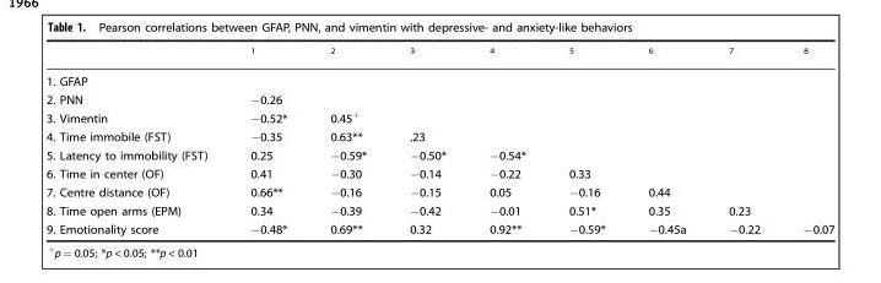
<table><thead><tr><td></td><td><sup>1</sup></td><td><sup>2</sup></td><td><sup>3</sup></td><td><sup>4</sup></td><td><sup>5</sup></td><td><sup>6</sup></td><td><sup>7</sup></td><td><sup>8</sup></td></tr></thead><tbody><tr><td colspan="9">1. GFAP</td></tr><tr><td>2. PNN</td><td>−0.26</td><td></td><td></td><td></td><td></td><td></td><td></td><td></td></tr><tr><td>3. Vimentin</td><td>−0.52*</td><td>0.45<sup>+</sup></td><td></td><td></td><td></td><td></td><td></td><td></td></tr><tr><td>4. Time immobile (FST)</td><td>−0.35</td><td>0.63**</td><td>.23</td><td></td><td></td><td></td><td></td><td></td></tr><tr><td>5. Latency to immobility (FST)</td><td>0.25</td><td>−0.59*</td><td>−0.50*</td><td>−0.54*</td><td></td><td></td><td></td><td></td></tr><tr><td>6. Time in center (OF)</td><td>0.41</td><td>−0.30</td><td>−0.14</td><td>−0.22</td><td>0.33</td><td></td><td></td><td></td></tr><tr><td>7. Centre distance (OF)</td><td>0.66**</td><td>−0.16</td><td>−0.15</td><td>0.05</td><td>−0.16</td><td>0.44</td><td></td><td></td></tr><tr><td>8. Time open arms (EPM)</td><td>0.34</td><td>−0.39</td><td>−0.42</td><td>−0.01</td><td>0.51*</td><td>0.35</td><td>0.23</td><td></td></tr><tr><td>9. Emotionality score</td><td>−0.48*</td><td>0.69**</td><td>0.32</td><td>0.92**</td><td>−0.59*</td><td>−0.45a</td><td>−0.22</td><td>−0.07</td></tr></tbody></table>